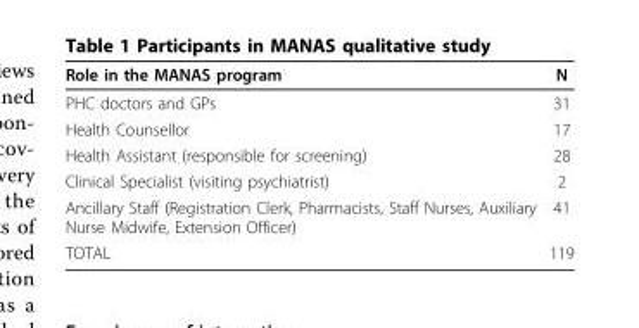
<table><thead><tr><td>Role in the MANAS program</td><td>N</td></tr></thead><tbody><tr><td>PHC doctors and GPs</td><td>31</td></tr><tr><td>Health Counsellor</td><td>17</td></tr><tr><td>Health Assistant (responsible for screening)</td><td>28</td></tr><tr><td>Clinical Specialist (visiting psychiatrist)</td><td>2</td></tr><tr><td>Ancillary Staff (Registration Clerk, Pharmacists, Staff Nurses, Auxiliary Nurse Midwife, Extension Officer)</td><td>41</td></tr><tr><td>TOTAL</td><td>119</td></tr></tbody></table>